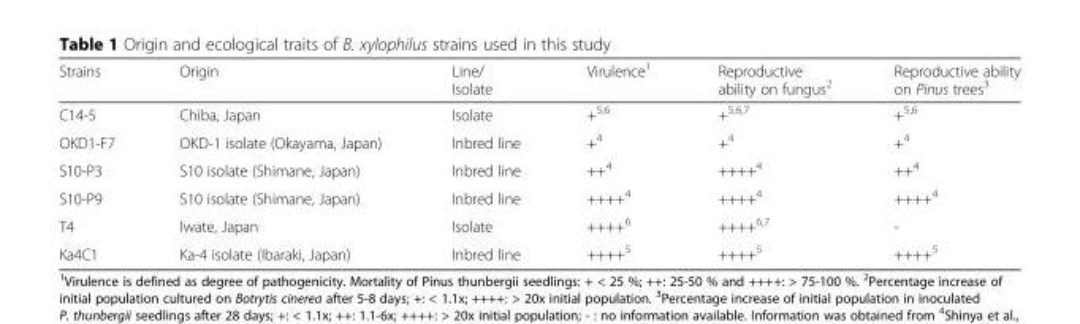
<table><thead><tr><td>Strains</td><td>Origin</td><td>Line/ Isolate</td><td>Virulence<sup>1</sup></td><td>Reproductive ability on fungus<sup>2</sup></td><td>Reproductive ability on Pinus trees<sup>3</sup></td></tr></thead><tbody><tr><td>C14-5</td><td>Chiba, Japan</td><td>Isolate</td><td>+<sup>5,6</sup></td><td>+<sup>5,6,7</sup></td><td>+<sup>5,6</sup></td></tr><tr><td>OKD1-F7</td><td>OKD-1 isolate (Okayama, Japan)</td><td>Inbred line</td><td>+<sup>4</sup></td><td>+<sup>4</sup></td><td>+<sup>4</sup></td></tr><tr><td>S10-P3</td><td>S10 isolate (Shimane, Japan)</td><td>Inbred line</td><td>++<sup>4</sup></td><td>++++<sup>4</sup></td><td>++<sup>4</sup></td></tr><tr><td>S10-P9</td><td>S10 isolate (Shimane, Japan)</td><td>Inbred line</td><td>++++<sup>4</sup></td><td>++++<sup>4</sup></td><td>++++<sup>4</sup></td></tr><tr><td>T4</td><td>Iwate, Japan</td><td>Isolate</td><td>++++<sup>6</sup></td><td>++++<sup>6,7</sup></td><td>-</td></tr><tr><td>Ka4C1</td><td>Ka-4 isolate (Ibaraki, Japan)</td><td>Inbred line</td><td>++++<sup>5</sup></td><td>++++<sup>5</sup></td><td>++++<sup>5</sup></td></tr></tbody></table>